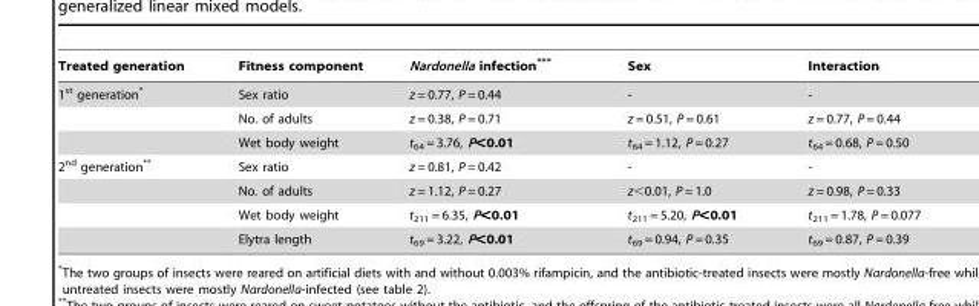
<table><thead><tr><td>Treated generation</td><td>Fitness component</td><td>Nardonella infection***</td><td>Sex</td><td>Interaction</td></tr></thead><tbody><tr><td rowspan="3">1<sup>st</sup> generation*</td><td>Sex ratio</td><td>z = 0.77, P = 0.44</td><td>-</td><td>-</td></tr><tr><td>No. of adults</td><td>z = 0.38, P = 0.71</td><td>z = 0.51, P = 0.61</td><td>z = 0.77, P = 0.44</td></tr><tr><td>Wet body weight</td><td>t<sub>64</sub> = 3.76, P&lt;0.01</td><td>t<sub>64</sub> = 1.12, P = 0.27</td><td>t<sub>64</sub> = 0.68, P = 0.50</td></tr><tr><td rowspan="4">2<sup>nd</sup> generation**</td><td>Sex ratio</td><td>z = 0.81, P = 0.42</td><td>-</td><td>-</td></tr><tr><td>No. of adults</td><td>z = 1.12, P = 0.27</td><td>z&lt;0.01, P = 1.0</td><td>z = 0.98, P = 0.33</td></tr><tr><td>Wet body weight</td><td>t<sub>211</sub> = 6.35, P&lt;0.01</td><td>t<sub>211</sub> = 5.20, P&lt;0.01</td><td>t<sub>211</sub> = 1.78, P = 0.077</td></tr><tr><td>Elytra length</td><td>t<sub>69</sub> = 3.22, P&lt;0.01</td><td>t<sub>69</sub> = 0.94, P = 0.35</td><td>t<sub>69</sub> = 0.87, P = 0.39</td></tr></tbody></table>